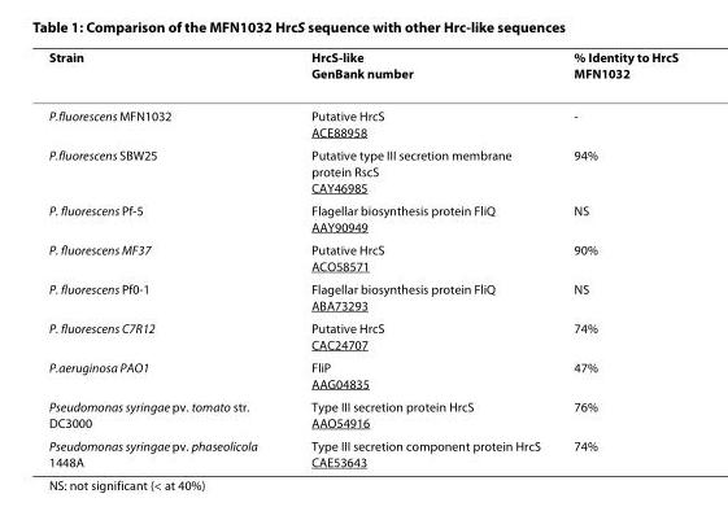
<table><thead><tr><td>Strain</td><td>HrcS-like GenBank number</td><td>% Identity to HrcS MFN1032</td></tr></thead><tbody><tr><td>P.fluorescens MFN1032</td><td>Putative HrcS ACE88958</td><td>-</td></tr><tr><td>P.fluorescens SBW25</td><td>Putative type III secretion membrane protein RscS CAY46985</td><td>94%</td></tr><tr><td>P. fluorescens Pf-5</td><td>Flagellar biosynthesis protein FliQ AAY90949</td><td>NS</td></tr><tr><td>P. fluorescens MF37</td><td>Putative HrcS ACO58571</td><td>90%</td></tr><tr><td>P. fluorescens Pf0-1</td><td>Flagellar biosynthesis protein FliQ ABA73293</td><td>NS</td></tr><tr><td>P. fluorescens C7R12</td><td>Putative HrcS CAC24707</td><td>74%</td></tr><tr><td>P.aeruginosa PAO1</td><td>FliP AAG04835</td><td>47%</td></tr><tr><td>Pseudomonas syringae pv. tomato str. DC3000</td><td>Type III secretion protein HrcS AAO54916</td><td>76%</td></tr><tr><td>Pseudomonas syringae pv. phaseolicola 1448A</td><td>Type III secretion component protein HrcS CAE53643</td><td>74%</td></tr></tbody></table>